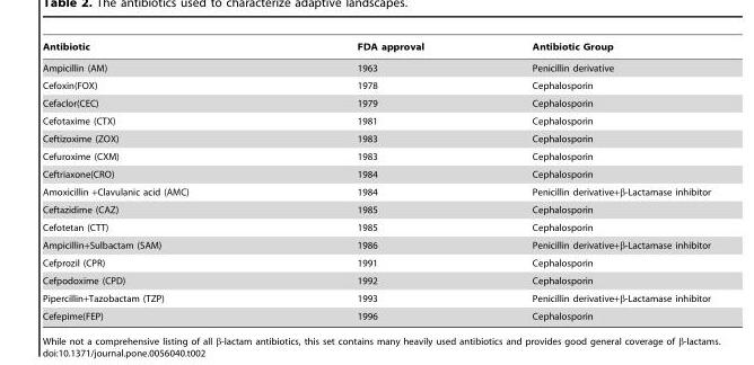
<table><thead><tr><td>Antibiotic</td><td>FDA approval</td><td>Antibiotic Group</td></tr></thead><tbody><tr><td>Ampicillin (AM)</td><td>1963</td><td>Penicillin derivative</td></tr><tr><td>Cefoxin(FOX)</td><td>1978</td><td>Cephalosporin</td></tr><tr><td>Cefaclor(CEC)</td><td>1979</td><td>Cephalosporin</td></tr><tr><td>Cefotaxime (CTX)</td><td>1981</td><td>Cephalosporin</td></tr><tr><td>Ceftizoxime (ZOX)</td><td>1983</td><td>Cephalosporin</td></tr><tr><td>Cefuroxime (CXM)</td><td>1983</td><td>Cephalosporin</td></tr><tr><td>Ceftriaxone(CRO)</td><td>1984</td><td>Cephalosporin</td></tr><tr><td>Amoxicillin +Clavulanic acid (AMC)</td><td>1984</td><td>Penicillin derivative+β-Lactamase inhibitor</td></tr><tr><td>Ceftazidime (CAZ)</td><td>1985</td><td>Cephalosporin</td></tr><tr><td>Cefotetan (CTT)</td><td>1985</td><td>Cephalosporin</td></tr><tr><td>Ampicillin+Sulbactam (SAM)</td><td>1986</td><td>Penicillin derivative+β-Lactamase inhibitor</td></tr><tr><td>Cefprozil (CPR)</td><td>1991</td><td>Cephalosporin</td></tr><tr><td>Cefpodoxime (CPD)</td><td>1992</td><td>Cephalosporin</td></tr><tr><td>Pipercillin+Tazobactam (TZP)</td><td>1993</td><td>Penicillin derivative+β-Lactamase inhibitor</td></tr><tr><td>Cefepime(FEP)</td><td>1996</td><td>Cephalosporin</td></tr></tbody></table>